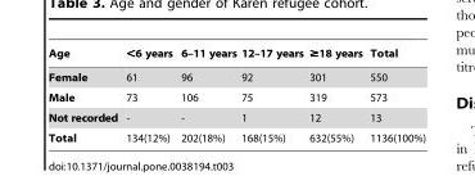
<table><thead><tr><td>Age</td><td>&lt;6 years</td><td>6–11 years</td><td>12–17 years</td><td>≥18 years</td><td>Total</td></tr></thead><tbody><tr><td>Female</td><td>61</td><td>96</td><td>92</td><td>301</td><td>550</td></tr><tr><td>Male</td><td>73</td><td>106</td><td>75</td><td>319</td><td>573</td></tr><tr><td>Not recorded</td><td>-</td><td>-</td><td>1</td><td>12</td><td>13</td></tr><tr><td>Total</td><td>134(12%)</td><td>202(18%)</td><td>168(15%)</td><td>632(55%)</td><td>1136(100%)</td></tr></tbody></table>